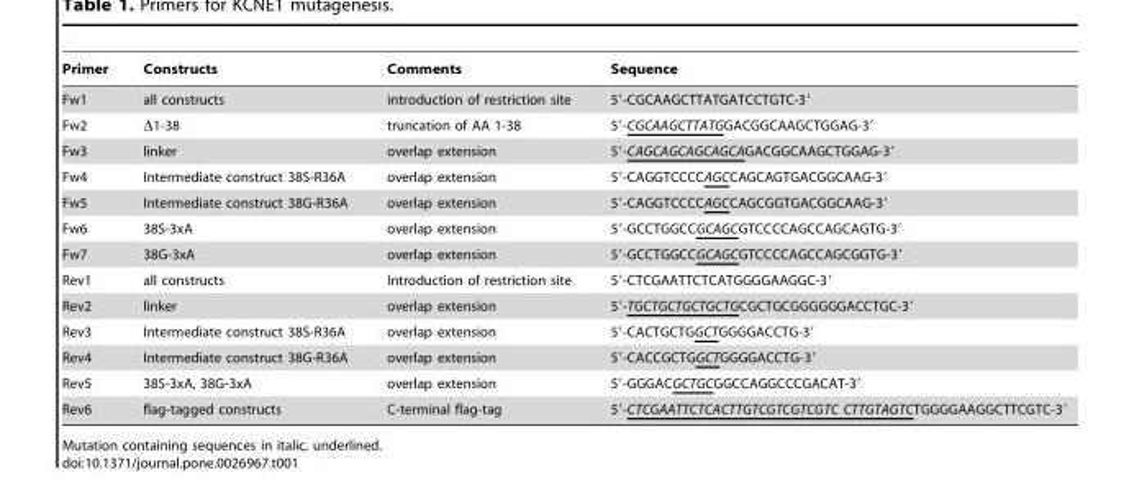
<table><thead><tr><td>Primer</td><td>Constructs</td><td>Comments</td><td>Sequence</td></tr></thead><tbody><tr><td>Fw1</td><td>all constructs</td><td>introduction of restriction site</td><td>5′-CGCAAGCTTATGATCCTGTC-3′</td></tr><tr><td>Fw2</td><td>Δ1-38</td><td>truncation of AA 1-38</td><td>5′-CGCAAGCTTATGGACGGCAAGCTGGAG-3′</td></tr><tr><td>Fw3</td><td>linker</td><td>overlap extension</td><td>5′-CAGCAGCAGCAGCAGACGGCAAGCTGGAG-3′</td></tr><tr><td>Fw4</td><td>Intermediate construct 38S-R36A</td><td>overlap extension</td><td>5′-CAGGTCCCCAGCCAGCAGTGACGGCAAG-3′</td></tr><tr><td>Fw5</td><td>Intermediate construct 38G-R36A</td><td>overlap extension</td><td>5′-CAGGTCCCCAGCCAGCGGTGACGGCAAG-3′</td></tr><tr><td>Fw6</td><td>38S-3xA</td><td>overlap extension</td><td>5′-GCCTGGCCGCAGCGTCCCCAGCCAGCAGTG-3′</td></tr><tr><td>Fw7</td><td>38G-3xA</td><td>overlap extension</td><td>5′-GCCTGGCCGCAGCGTCCCCAGCCAGCGGTG-3′</td></tr><tr><td>Rev1</td><td>all constructs</td><td>Introduction of restriction site</td><td>5′-CTCGAATTCTCATGGGGAAGGC-3′</td></tr><tr><td>Rev2</td><td>linker</td><td>overlap extension</td><td>5′-TGCTGCTGCTGCTGCGCTGCGGGGGGACCTGC-3′</td></tr><tr><td>Rev3</td><td>Intermediate construct 38S-R36A</td><td>overlap extension</td><td>5′-CACTGCTGGCTGGGGACCTG-3′</td></tr><tr><td>Rev4</td><td>Intermediate construct 38G-R36A</td><td>overlap extension</td><td>5′-CACCGCTGGCTGGGGACCTG-3′</td></tr><tr><td>Rev5</td><td>38S-3xA, 38G-3xA</td><td>overlap extension</td><td>5′-GGGACGCTGCGGCCAGGCCCGACAT-3′</td></tr><tr><td>Rev6</td><td>flag-tagged constructs</td><td>C-terminal flag-tag</td><td>5′-CTCGAATTCTCACTTGTCGTCGTCGTC CTTGTAGTCTGGGGAAGGCTTCGTC-3′</td></tr></tbody></table>